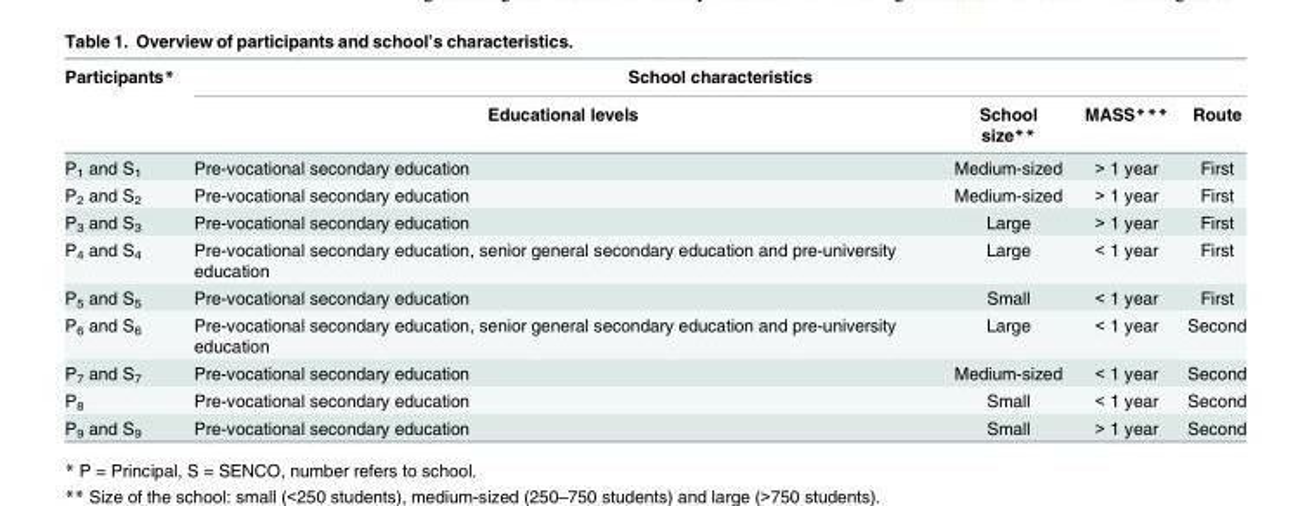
<table><thead><tr><td rowspan="2">Participants*</td><td colspan="4">School characteristics</td></tr><tr><td>Educational levels</td><td>School size**</td><td>MASS***</td><td>Route</td></tr></thead><tbody><tr><td>P<sub>1</sub> and S<sub>1</sub></td><td>Pre-vocational secondary education</td><td>Medium-sized</td><td>&gt; 1 year</td><td>First</td></tr><tr><td>P<sub>2</sub> and S<sub>2</sub></td><td>Pre-vocational secondary education</td><td>Medium-sized</td><td>&gt; 1 year</td><td>First</td></tr><tr><td>P<sub>3</sub> and S<sub>3</sub></td><td>Pre-vocational secondary education</td><td>Large</td><td>&gt; 1 year</td><td>First</td></tr><tr><td>P<sub>4</sub> and S<sub>4</sub></td><td>Pre-vocational secondary education, senior general secondary education and pre-university education</td><td>Large</td><td>&lt; 1 year</td><td>First</td></tr><tr><td>P<sub>5</sub> and S<sub>5</sub></td><td>Pre-vocational secondary education</td><td>Small</td><td>&lt; 1 year</td><td>First</td></tr><tr><td>P<sub>6</sub> and S<sub>6</sub></td><td>Pre-vocational secondary education, senior general secondary education and pre-university education</td><td>Large</td><td>&lt; 1 year</td><td>Second</td></tr><tr><td>P<sub>7</sub> and S<sub>7</sub></td><td>Pre-vocational secondary education</td><td>Medium-sized</td><td>&lt; 1 year</td><td>Second</td></tr><tr><td>P<sub>8</sub></td><td>Pre-vocational secondary education</td><td>Small</td><td>&lt; 1 year</td><td>Second</td></tr><tr><td>P<sub>9</sub> and S<sub>9</sub></td><td>Pre-vocational secondary education</td><td>Small</td><td>&gt; 1 year</td><td>Second</td></tr></tbody></table>